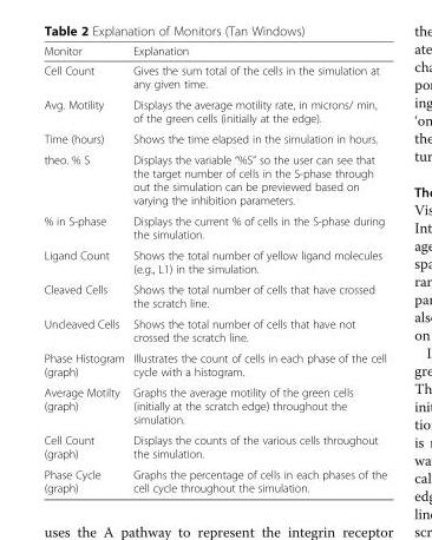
<table><thead><tr><td>Monitor</td><td>Explanation</td></tr></thead><tbody><tr><td>Cell Count</td><td>Gives the sum total of the cells in the simulation at any given time.</td></tr><tr><td>Avg. Motility</td><td>Displays the average motility rate, in microns/ min, of the green cells (initially at the edge).</td></tr><tr><td>Time (hours)</td><td>Shows the time elapsed in the simulation in hours.</td></tr><tr><td>theo. % S</td><td>Displays the variable “%S” so the user can see that the target number of cells in the S-phase through out the simulation can be previewed based on varying the inhibition parameters.</td></tr><tr><td>% in S-phase</td><td>Displays the current % of cells in the S-phase during the simulation.</td></tr><tr><td>Ligand Count</td><td>Shows the total number of yellow ligand molecules (e.g., L1) in the simulation.</td></tr><tr><td>Cleaved Cells</td><td>Shows the total number of cells that have crossed the scratch line.</td></tr><tr><td>Uncleaved Cells</td><td>Shows the total number of cells that have not crossed the scratch line.</td></tr><tr><td>Phase Histogram (graph)</td><td>Illustrates the count of cells in each phase of the cell cycle with a histogram.</td></tr><tr><td>Average Motilty (graph)</td><td>Graphs the average motility of the green cells (initially at the scratch edge) throughout the simulation.</td></tr><tr><td>Cell Count (graph)</td><td>Displays the counts of the various cells throughout the simulation.</td></tr><tr><td>Phase Cycle (graph)</td><td>Graphs the percentage of cells in each phases of the cell cycle throughout the simulation.</td></tr></tbody></table>